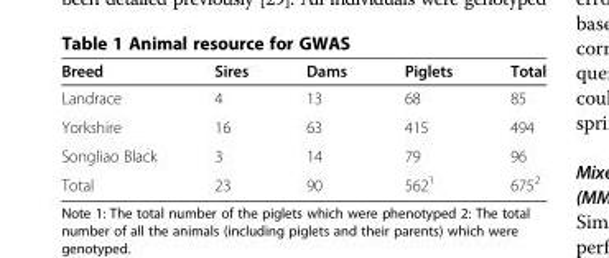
<table><thead><tr><td>Breed</td><td>Sires</td><td>Dams</td><td>Piglets</td><td>Total</td></tr></thead><tbody><tr><td>Landrace</td><td>4</td><td>13</td><td>68</td><td>85</td></tr><tr><td>Yorkshire</td><td>16</td><td>63</td><td>415</td><td>494</td></tr><tr><td>Songliao Black</td><td>3</td><td>14</td><td>79</td><td>96</td></tr><tr><td>Total</td><td>23</td><td>90</td><td>562<sup>1</sup></td><td>675<sup>2</sup></td></tr></tbody></table>